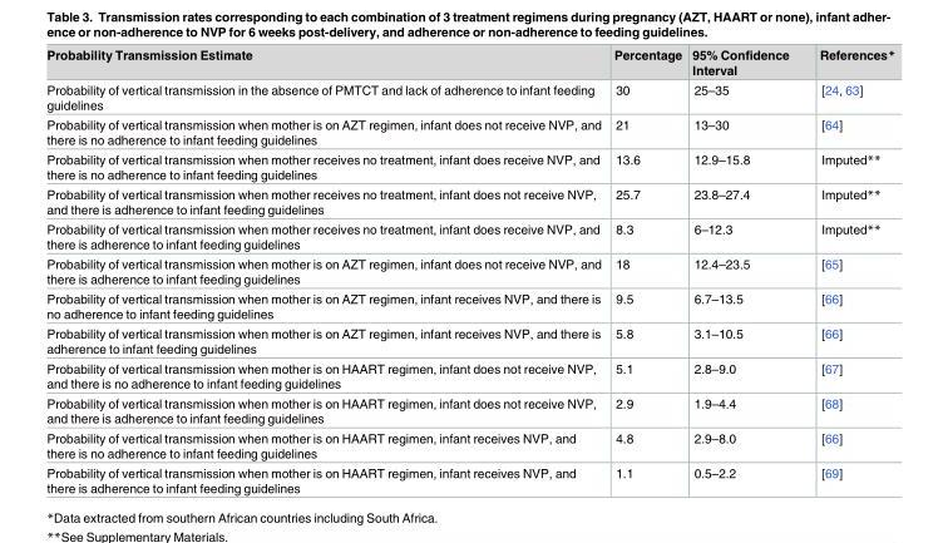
<table><thead><tr><td>Probability Transmission Estimate</td><td>Percentage</td><td>95% Confidence Interval</td><td>References*</td></tr></thead><tbody><tr><td>Probability of vertical transmission in the absence of PMTCT and lack of adherence to infant feeding guidelines</td><td>30</td><td>25–35</td><td>[24, 63]</td></tr><tr><td>Probability of vertical transmission when mother is on AZT regimen, infant does not receive NVP, and there is no adherence to infant feeding guidelines</td><td>21</td><td>13–30</td><td>[64]</td></tr><tr><td>Probability of vertical transmission when mother receives no treatment, infant does receive NVP, and there is no adherence to infant feeding guidelines</td><td>13.6</td><td>12.9–15.8</td><td>Imputed**</td></tr><tr><td>Probability of vertical transmission when mother receives no treatment, infant does not receive NVP, and there is adherence to infant feeding guidelines</td><td>25.7</td><td>23.8–27.4</td><td>Imputed**</td></tr><tr><td>Probability of vertical transmission when mother receives no treatment, infant does receive NVP, and there is adherence to infant feeding guidelines</td><td>8.3</td><td>6–12.3</td><td>Imputed**</td></tr><tr><td>Probability of vertical transmission when mother is on AZT regimen, infant does not receive NVP, and there is adherence to infant feeding guidelines</td><td>18</td><td>12.4–23.5</td><td>[65]</td></tr><tr><td>Probability of vertical transmission when mother is on AZT regimen, infant receives NVP, and there is no adherence to infant feeding guidelines</td><td>9.5</td><td>6.7–13.5</td><td>[66]</td></tr><tr><td>Probability of vertical transmission when mother is on AZT regimen, infant receives NVP, and there is adherence to infant feeding guidelines</td><td>5.8</td><td>3.1–10.5</td><td>[66]</td></tr><tr><td>Probability of vertical transmission when mother is on HAART regimen, infant does not receive NVP, and there is no adherence to infant feeding guidelines</td><td>5.1</td><td>2.8–9.0</td><td>[67]</td></tr><tr><td>Probability of vertical transmission when mother is on HAART regimen, infant does not receive NVP, and there is adherence to infant feeding guidelines</td><td>2.9</td><td>1.9–4.4</td><td>[68]</td></tr><tr><td>Probability of vertical transmission when mother is on HAART regimen, infant receives NVP, and there is no adherence to infant feeding guidelines</td><td>4.8</td><td>2.9–8.0</td><td>[66]</td></tr><tr><td>Probability of vertical transmission when mother is on HAART regimen, infant receives NVP, and there is adherence to infant feeding guidelines</td><td>1.1</td><td>0.5–2.2</td><td>[69]</td></tr></tbody></table>